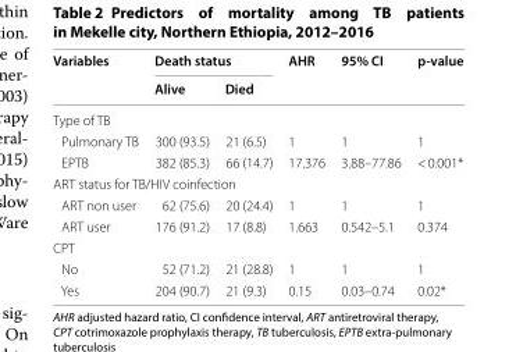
<table><thead><tr><td rowspan="2">Variables</td><td colspan="2">Death status</td><td rowspan="2">AHR</td><td rowspan="2">95% CI</td><td rowspan="2">p-value</td></tr><tr><td>Alive</td><td>Died</td></tr></thead><tbody><tr><td colspan="6">Type of TB</td></tr><tr><td>Pulmonary TB</td><td>300 (93.5)</td><td>21 (6.5)</td><td>1</td><td>1</td><td>1</td></tr><tr><td>EPTB</td><td>382 (85.3)</td><td>66 (14.7)</td><td>17.376</td><td>3.88–77.86</td><td>&lt; 0.001*</td></tr><tr><td colspan="6">ART status for TB/HIV coinfection</td></tr><tr><td>ART non user</td><td>62 (75.6)</td><td>20 (24.4)</td><td>1</td><td>1</td><td>1</td></tr><tr><td>ART user</td><td>176 (91.2)</td><td>17 (8.8)</td><td>1.663</td><td>0.542–5.1</td><td>0.374</td></tr><tr><td colspan="6">CPT</td></tr><tr><td>No</td><td>52 (71.2)</td><td>21 (28.8)</td><td>1</td><td>1</td><td>1</td></tr><tr><td>Yes</td><td>204 (90.7)</td><td>21 (9.3)</td><td>0.15</td><td>0.03–0.74</td><td>0.02*</td></tr></tbody></table>